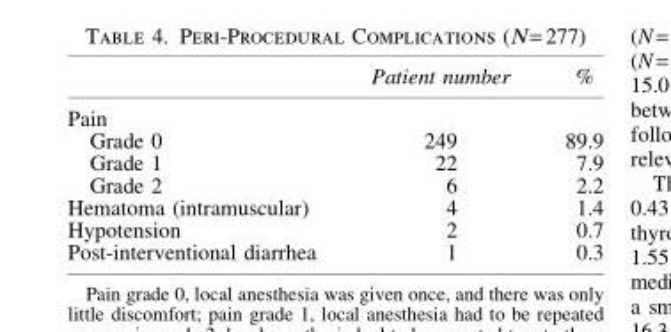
<table><thead><tr><td></td><td>Patient number</td><td>%</td></tr></thead><tbody><tr><td colspan="3">Pain</td></tr><tr><td>Grade 0</td><td>249</td><td>89.9</td></tr><tr><td>Grade 1</td><td>22</td><td>7.9</td></tr><tr><td>Grade 2</td><td>6</td><td>2.2</td></tr><tr><td>Hematoma (intramuscular)</td><td>4</td><td>1.4</td></tr><tr><td>Hypotension</td><td>2</td><td>0.7</td></tr><tr><td>Post-interventional diarrhea</td><td>1</td><td>0.3</td></tr></tbody></table>